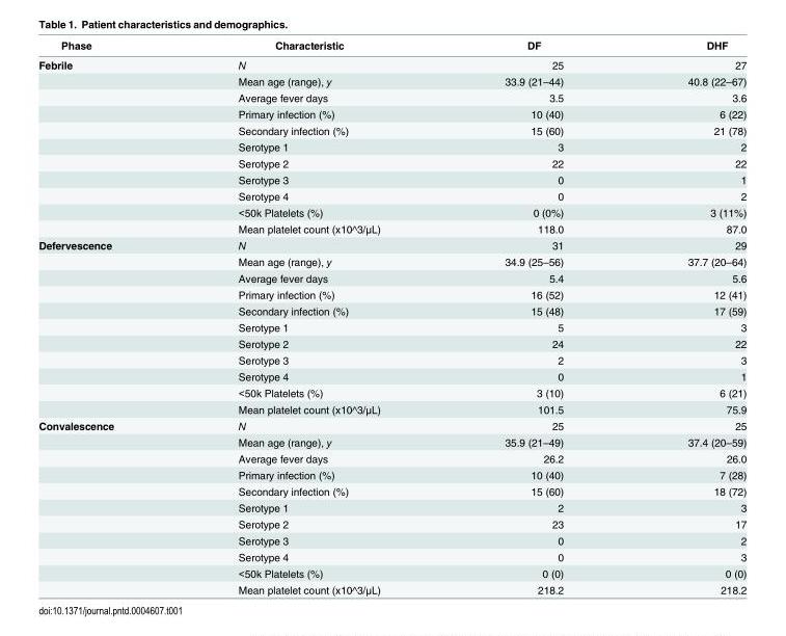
<table><thead><tr><td>Phase</td><td>Characteristic</td><td>DF</td><td>DHF</td></tr></thead><tbody><tr><td rowspan="11">Febrile</td><td>N</td><td>25</td><td>27</td></tr><tr><td>Mean age (range), y</td><td>33.9 (21–44)</td><td>40.8 (22–67)</td></tr><tr><td>Average fever days</td><td>3.5</td><td>3.6</td></tr><tr><td>Primary infection (%)</td><td>10 (40)</td><td>6 (22)</td></tr><tr><td>Secondary infection (%)</td><td>15 (60)</td><td>21 (78)</td></tr><tr><td>Serotype 1</td><td>3</td><td>2</td></tr><tr><td>Serotype 2</td><td>22</td><td>22</td></tr><tr><td>Serotype 3</td><td>0</td><td>1</td></tr><tr><td>Serotype 4</td><td>0</td><td>2</td></tr><tr><td>&lt;50k Platelets (%)</td><td>0 (0%)</td><td>3 (11%)</td></tr><tr><td>Mean platelet count (x10^3/μL)</td><td>118.0</td><td>87.0</td></tr><tr><td rowspan="11">Defervescence</td><td>N</td><td>31</td><td>29</td></tr><tr><td>Mean age (range), y</td><td>34.9 (25–56)</td><td>37.7 (20–64)</td></tr><tr><td>Average fever days</td><td>5.4</td><td>5.6</td></tr><tr><td>Primary infection (%)</td><td>16 (52)</td><td>12 (41)</td></tr><tr><td>Secondary infection (%)</td><td>15 (48)</td><td>17 (59)</td></tr><tr><td>Serotype 1</td><td>5</td><td>3</td></tr><tr><td>Serotype 2</td><td>24</td><td>22</td></tr><tr><td>Serotype 3</td><td>2</td><td>3</td></tr><tr><td>Serotype 4</td><td>0</td><td>1</td></tr><tr><td>&lt;50k Platelets (%)</td><td>3 (10)</td><td>6 (21)</td></tr><tr><td>Mean platelet count (x10^3/μL)</td><td>101.5</td><td>75.9</td></tr><tr><td rowspan="11">Convalescence</td><td>N</td><td>25</td><td>25</td></tr><tr><td>Mean age (range), y</td><td>35.9 (21–49)</td><td>37.4 (20–59)</td></tr><tr><td>Average fever days</td><td>26.2</td><td>26.0</td></tr><tr><td>Primary infection (%)</td><td>10 (40)</td><td>7 (28)</td></tr><tr><td>Secondary infection (%)</td><td>15 (60)</td><td>18 (72)</td></tr><tr><td>Serotype 1</td><td>2</td><td>3</td></tr><tr><td>Serotype 2</td><td>23</td><td>17</td></tr><tr><td>Serotype 3</td><td>0</td><td>2</td></tr><tr><td>Serotype 4</td><td>0</td><td>3</td></tr><tr><td>&lt;50k Platelets (%)</td><td>0 (0)</td><td>0 (0)</td></tr><tr><td>Mean platelet count (x10^3/μL)</td><td>218.2</td><td>218.2</td></tr></tbody></table>